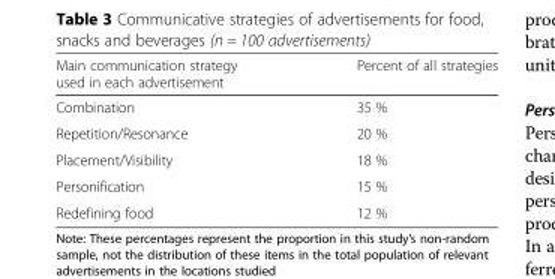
<table><thead><tr><td>Main communication strategy used in each advertisement</td><td>Percent of all strategies</td></tr></thead><tbody><tr><td>Combination</td><td>35 %</td></tr><tr><td>Repetition/Resonance</td><td>20 %</td></tr><tr><td>Placement/Visibility</td><td>18 %</td></tr><tr><td>Personification</td><td>15 %</td></tr><tr><td>Redefining food</td><td>12 %</td></tr></tbody></table>